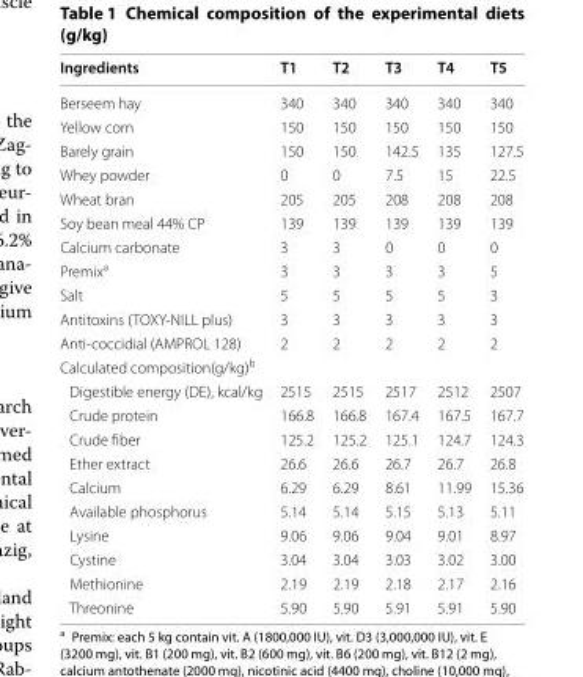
<table><thead><tr><td>Ingredients</td><td>T1</td><td>T2</td><td>T3</td><td>T4</td><td>T5</td></tr></thead><tbody><tr><td>Berseem hay</td><td>340</td><td>340</td><td>340</td><td>340</td><td>340</td></tr><tr><td>Yellow corn</td><td>150</td><td>150</td><td>150</td><td>150</td><td>150</td></tr><tr><td>Barely grain</td><td>150</td><td>150</td><td>142.5</td><td>135</td><td>127.5</td></tr><tr><td>Whey powder</td><td>0</td><td>0</td><td>7.5</td><td>15</td><td>22.5</td></tr><tr><td>Wheat bran</td><td>205</td><td>205</td><td>208</td><td>208</td><td>208</td></tr><tr><td>Soy bean meal 44% CP</td><td>139</td><td>139</td><td>139</td><td>139</td><td>139</td></tr><tr><td>Calcium carbonate</td><td>3</td><td>3</td><td>0</td><td>0</td><td>0</td></tr><tr><td>Premix<sup>a</sup></td><td>3</td><td>3</td><td>3</td><td>3</td><td>5</td></tr><tr><td>Salt</td><td>5</td><td>5</td><td>5</td><td>5</td><td>3</td></tr><tr><td>Antitoxins (TOXY‑NILL plus)</td><td>3</td><td>3</td><td>3</td><td>3</td><td>3</td></tr><tr><td>Anti‑coccidial (AMPROL 128)</td><td>2</td><td>2</td><td>2</td><td>2</td><td>2</td></tr><tr><td colspan="6">Calculated composition(g/kg)<sup>b</sup></td></tr><tr><td>Digestible energy (DE), kcal/kg</td><td>2515</td><td>2515</td><td>2517</td><td>2512</td><td>2507</td></tr><tr><td>Crude protein</td><td>166.8</td><td>166.8</td><td>167.4</td><td>167.5</td><td>167.7</td></tr><tr><td>Crude fiber</td><td>125.2</td><td>125.2</td><td>125.1</td><td>124.7</td><td>124.3</td></tr><tr><td>Ether extract</td><td>26.6</td><td>26.6</td><td>26.7</td><td>26.7</td><td>26.8</td></tr><tr><td>Calcium</td><td>6.29</td><td>6.29</td><td>8.61</td><td>11.99</td><td>15.36</td></tr><tr><td>Available phosphorus</td><td>5.14</td><td>5.14</td><td>5.15</td><td>5.13</td><td>5.11</td></tr><tr><td>Lysine</td><td>9.06</td><td>9.06</td><td>9.04</td><td>9.01</td><td>8.97</td></tr><tr><td>Cystine</td><td>3.04</td><td>3.04</td><td>3.03</td><td>3.02</td><td>3.00</td></tr><tr><td>Methionine</td><td>2.19</td><td>2.19</td><td>2.18</td><td>2.17</td><td>2.16</td></tr><tr><td>Threonine</td><td>5.90</td><td>5.90</td><td>5.91</td><td>5.91</td><td>5.90</td></tr></tbody></table>